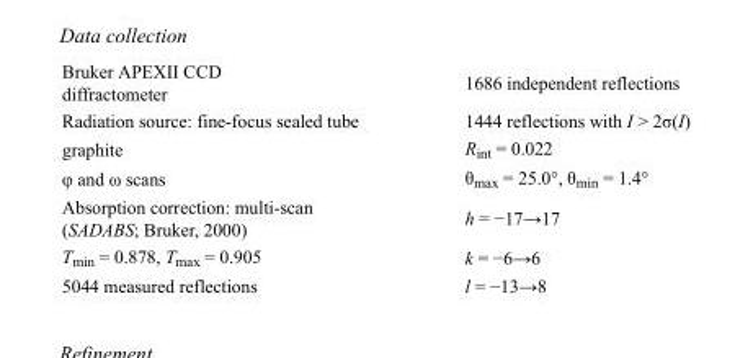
<table><tbody><tr><td>Bruker APEXII CCD diffractometer</td><td>1686 independent reflections</td></tr><tr><td>Radiation source: fine-focus sealed tube</td><td>1444 reflections with I &gt; 2σ(I)</td></tr><tr><td>graphite</td><td>R<sub>int</sub> = 0.022</td></tr><tr><td>φ and ω scans</td><td>θ<sub>max</sub> = 25.0°, θ<sub>min</sub> = 1.4°</td></tr><tr><td>Absorption correction: multi-scan (SADABS; Bruker, 2000)</td><td>h = −17→17</td></tr><tr><td>T<sub>min</sub> = 0.878, T<sub>max</sub> = 0.905</td><td>k = −6→6</td></tr><tr><td>5044 measured reflections</td><td>l = −13→8</td></tr></tbody></table>